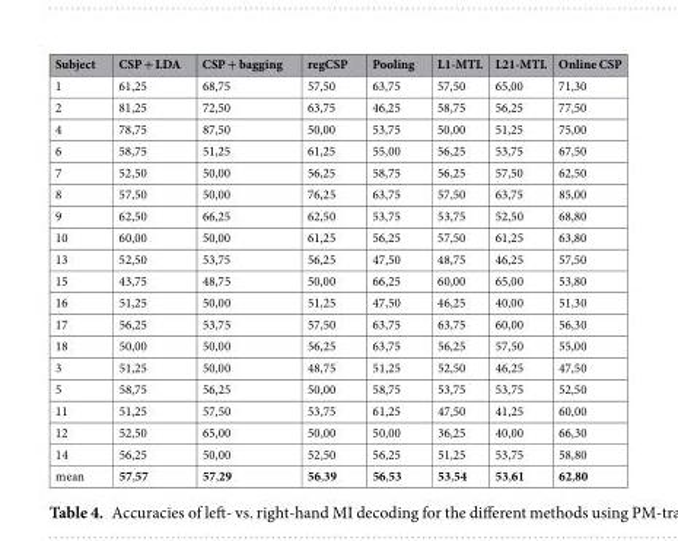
<table><thead><tr><td>Subject</td><td>CSP + LDA</td><td>CSP + bagging</td><td>regCSP</td><td>Pooling</td><td>L1-MTL</td><td>L21-MTL</td><td>Online CSP</td></tr></thead><tbody><tr><td>1</td><td>61,25</td><td>68,75</td><td>57,50</td><td>63,75</td><td>57,50</td><td>65,00</td><td>71,30</td></tr><tr><td>2</td><td>81,25</td><td>72,50</td><td>63,75</td><td>46,25</td><td>58,75</td><td>56,25</td><td>77,50</td></tr><tr><td>4</td><td>78,75</td><td>87,50</td><td>50,00</td><td>53,75</td><td>50,00</td><td>51,25</td><td>75,00</td></tr><tr><td>6</td><td>58,75</td><td>51,25</td><td>61,25</td><td>55,00</td><td>56,25</td><td>53,75</td><td>67,50</td></tr><tr><td>7</td><td>52,50</td><td>50,00</td><td>56,25</td><td>58,75</td><td>56,25</td><td>57,50</td><td>62,50</td></tr><tr><td>8</td><td>57,50</td><td>50,00</td><td>76,25</td><td>63,75</td><td>57,50</td><td>63,75</td><td>85,00</td></tr><tr><td>9</td><td>62,50</td><td>66,25</td><td>62,50</td><td>53,75</td><td>53,75</td><td>52,50</td><td>68,80</td></tr><tr><td>10</td><td>60,00</td><td>50,00</td><td>61,25</td><td>56,25</td><td>57,50</td><td>61,25</td><td>63,80</td></tr><tr><td>13</td><td>52,50</td><td>53,75</td><td>56,25</td><td>47,50</td><td>48,75</td><td>46,25</td><td>57,50</td></tr><tr><td>15</td><td>43,75</td><td>48,75</td><td>50,00</td><td>66,25</td><td>60,00</td><td>65,00</td><td>53,80</td></tr><tr><td>16</td><td>51,25</td><td>50,00</td><td>51,25</td><td>47,50</td><td>46,25</td><td>40,00</td><td>51,30</td></tr><tr><td>17</td><td>56,25</td><td>53,75</td><td>57,50</td><td>63,75</td><td>63,75</td><td>60,00</td><td>56,30</td></tr><tr><td>18</td><td>50,00</td><td>50,00</td><td>56,25</td><td>63,75</td><td>56,25</td><td>57,50</td><td>55,00</td></tr><tr><td>3</td><td>51,25</td><td>50,00</td><td>48,75</td><td>51,25</td><td>52,50</td><td>46,25</td><td>47,50</td></tr><tr><td>5</td><td>58,75</td><td>56,25</td><td>50,00</td><td>58,75</td><td>53,75</td><td>53,75</td><td>52,50</td></tr><tr><td>11</td><td>51,25</td><td>57,50</td><td>53,75</td><td>61,25</td><td>47,50</td><td>41,25</td><td>60,00</td></tr><tr><td>12</td><td>52,50</td><td>65,00</td><td>50,00</td><td>50,00</td><td>36,25</td><td>40,00</td><td>66,30</td></tr><tr><td>14</td><td>56,25</td><td>50,00</td><td>52,50</td><td>56,25</td><td>51,25</td><td>53,75</td><td>58,80</td></tr><tr><td>mean</td><td>57,57</td><td>57,29</td><td>56,39</td><td>56,53</td><td>53,54</td><td>53,61</td><td>62,80</td></tr></tbody></table>